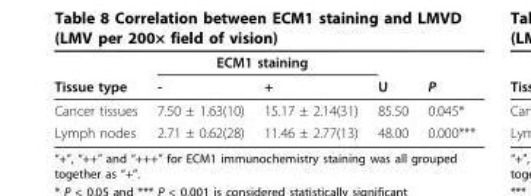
<table><thead><tr><td rowspan="2">Tissue type</td><td colspan="2">ECM1 staining</td><td rowspan="2">U</td><td rowspan="2">P</td></tr><tr><td>-</td><td>+</td></tr></thead><tbody><tr><td>Cancer tissues</td><td>7.50 ± 1.63(10)</td><td>15.17 ± 2.14(31)</td><td>85.50</td><td>0.045*</td></tr><tr><td>Lymph nodes</td><td>2.71 ± 0.62(28)</td><td>11.46 ± 2.77(13)</td><td>48.00</td><td>0.000***</td></tr></tbody></table>